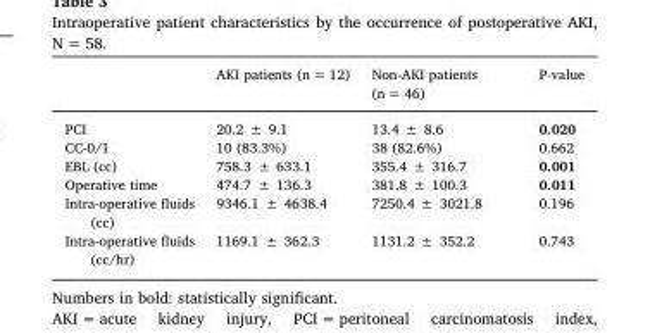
<table><thead><tr><td></td><td>AKI patients (n = 12)</td><td>Non-AKI patients (n = 46)</td><td>P-value</td></tr></thead><tbody><tr><td>PCI</td><td>20.2 ± 9.1</td><td>13.4 ± 8.6</td><td>0.020</td></tr><tr><td>CC-0/1</td><td>10 (83.3%)</td><td>38 (82.6%)</td><td>0.662</td></tr><tr><td>EBL (cc)</td><td>758.3 ± 633.1</td><td>355.4 ± 316.7</td><td>0.001</td></tr><tr><td>Operative time</td><td>474.7 ± 136.3</td><td>381.8 ± 100.3</td><td>0.011</td></tr><tr><td>Intra-operative fluids (cc)</td><td>9346.1 ± 4638.4</td><td>7250.4 ± 3021.8</td><td>0.196</td></tr><tr><td>Intra-operative fluids (cc/hr)</td><td>1169.1 ± 362.3</td><td>1131.2 ± 352.2</td><td>0.743</td></tr></tbody></table>